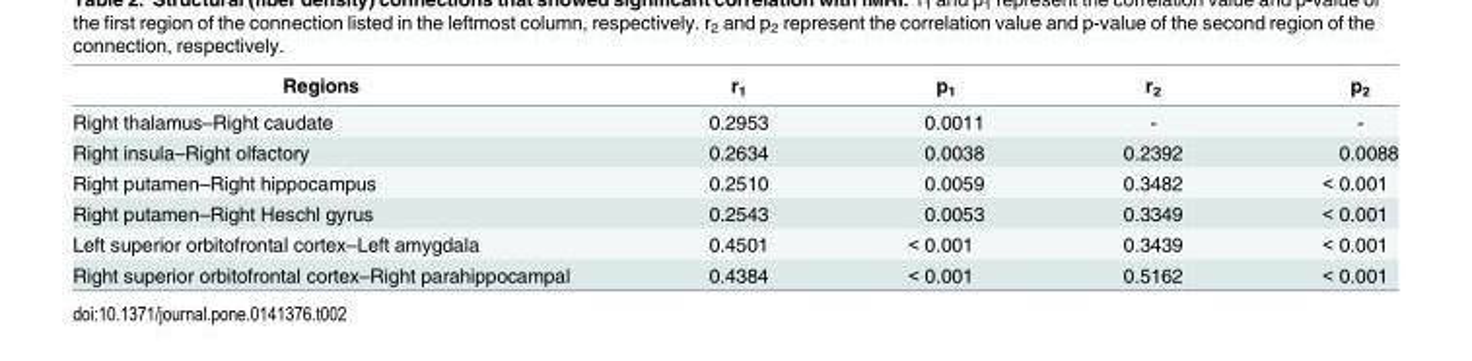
<table><thead><tr><td>Regions</td><td>r<sub>1</sub></td><td>p<sub>1</sub></td><td>r<sub>2</sub></td><td>p<sub>2</sub></td></tr></thead><tbody><tr><td>Right thalamus–Right caudate</td><td>0.2953</td><td>0.0011</td><td>-</td><td>-</td></tr><tr><td>Right insula–Right olfactory</td><td>0.2634</td><td>0.0038</td><td>0.2392</td><td>0.0088</td></tr><tr><td>Right putamen–Right hippocampus</td><td>0.2510</td><td>0.0059</td><td>0.3482</td><td>&lt; 0.001</td></tr><tr><td>Right putamen–Right Heschl gyrus</td><td>0.2543</td><td>0.0053</td><td>0.3349</td><td>&lt; 0.001</td></tr><tr><td>Left superior orbitofrontal cortex–Left amygdala</td><td>0.4501</td><td>&lt; 0.001</td><td>0.3439</td><td>&lt; 0.001</td></tr><tr><td>Right superior orbitofrontal cortex–Right parahippocampal</td><td>0.4384</td><td>&lt; 0.001</td><td>0.5162</td><td>&lt; 0.001</td></tr></tbody></table>